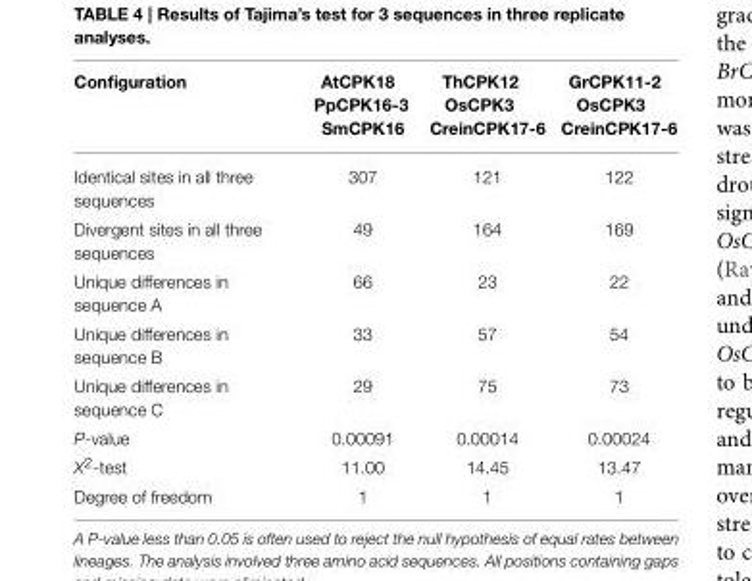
<table><thead><tr><td>Configuration</td><td>AtCPK18 PpCPK16-3 SmCPK16</td><td>ThCPK12 OsCPK3 CreinCPK17-6</td><td>GrCPK11-2 OsCPK3 CreinCPK17-6</td></tr></thead><tbody><tr><td>Identical sites in all three sequences</td><td>307</td><td>121</td><td>122</td></tr><tr><td>Divergent sites in all three sequences</td><td>49</td><td>164</td><td>169</td></tr><tr><td>Unique differences in sequence A</td><td>66</td><td>23</td><td>22</td></tr><tr><td>Unique differences in sequence B</td><td>33</td><td>57</td><td>54</td></tr><tr><td>Unique differences in sequence C</td><td>29</td><td>75</td><td>73</td></tr><tr><td>P-value</td><td>0.00091</td><td>0.00014</td><td>0.00024</td></tr><tr><td>X<sup>2</sup>-test</td><td>11.00</td><td>14.45</td><td>13.47</td></tr><tr><td>Degree of freedom</td><td>1</td><td>1</td><td>1</td></tr></tbody></table>